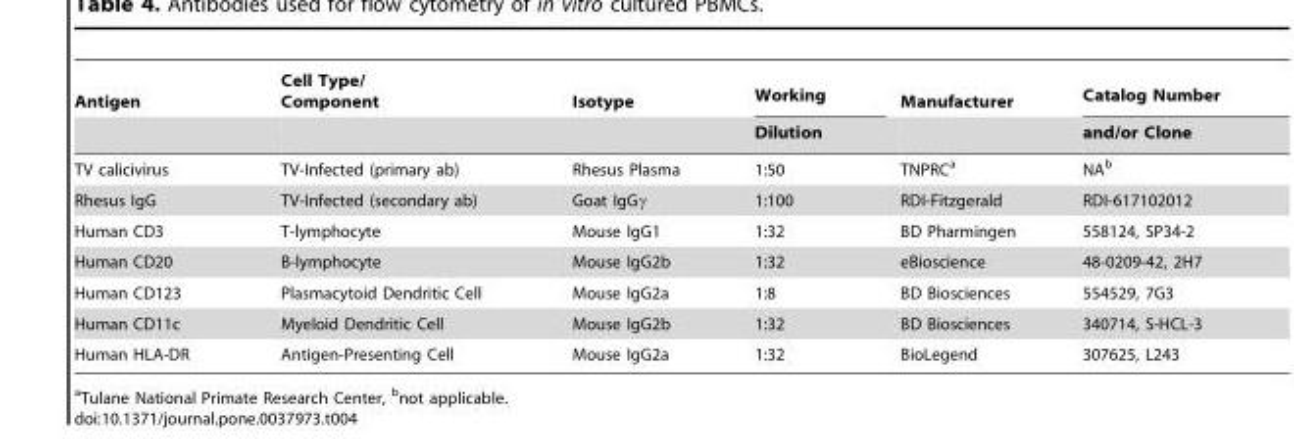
<table><thead><tr><td rowspan="2">Antigen</td><td rowspan="2">Cell Type/ Component</td><td rowspan="2">Isotype</td><td rowspan="2">Working Dilution</td><td rowspan="2">Manufacturer</td><td rowspan="2">Catalog Number and/or Clone</td></tr><tr></tr></thead><tbody><tr><td>TV calicivirus</td><td>TV-Infected (primary ab)</td><td>Rhesus Plasma</td><td>1:50</td><td>TNPRC<sup>a</sup></td><td>NA<sup>b</sup></td></tr><tr><td>Rhesus IgG</td><td>TV-Infected (secondary ab)</td><td>Goat IgGγ</td><td>1:100</td><td>RDI-Fitzgerald</td><td>RDI-617102012</td></tr><tr><td>Human CD3</td><td>T-lymphocyte</td><td>Mouse IgG1</td><td>1:32</td><td>BD Pharmingen</td><td>558124, SP34-2</td></tr><tr><td>Human CD20</td><td>B-lymphocyte</td><td>Mouse IgG2b</td><td>1:32</td><td>eBioscience</td><td>48-0209-42, 2H7</td></tr><tr><td>Human CD123</td><td>Plasmacytoid Dendritic Cell</td><td>Mouse IgG2a</td><td>1:8</td><td>BD Biosciences</td><td>554529, 7G3</td></tr><tr><td>Human CD11c</td><td>Myeloid Dendritic Cell</td><td>Mouse IgG2b</td><td>1:32</td><td>BD Biosciences</td><td>340714, S-HCL-3</td></tr><tr><td>Human HLA-DR</td><td>Antigen-Presenting Cell</td><td>Mouse IgG2a</td><td>1:32</td><td>BioLegend</td><td>307625, L243</td></tr></tbody></table>